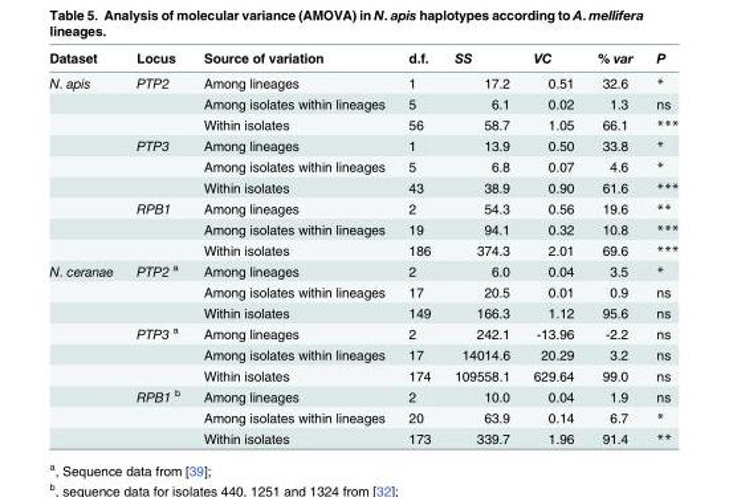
<table><thead><tr><td>Dataset</td><td>Locus</td><td>Source of variation</td><td>d.f.</td><td>SS</td><td>VC</td><td>% var</td><td>P</td></tr></thead><tbody><tr><td rowspan="9">N. apis</td><td>PTP2</td><td>Among lineages</td><td>1</td><td>17.2</td><td>0.51</td><td>32.6</td><td>*</td></tr><tr><td></td><td>Among isolates within lineages</td><td>5</td><td>6.1</td><td>0.02</td><td>1.3</td><td>ns</td></tr><tr><td></td><td>Within isolates</td><td>56</td><td>58.7</td><td>1.05</td><td>66.1</td><td>***</td></tr><tr><td>PTP3</td><td>Among lineages</td><td>1</td><td>13.9</td><td>0.50</td><td>33.8</td><td>*</td></tr><tr><td></td><td>Among isolates within lineages</td><td>5</td><td>6.8</td><td>0.07</td><td>4.6</td><td>*</td></tr><tr><td></td><td>Within isolates</td><td>43</td><td>38.9</td><td>0.90</td><td>61.6</td><td>***</td></tr><tr><td>RPB1</td><td>Among lineages</td><td>2</td><td>54.3</td><td>0.56</td><td>19.6</td><td>**</td></tr><tr><td></td><td>Among isolates within lineages</td><td>19</td><td>94.1</td><td>0.32</td><td>10.8</td><td>***</td></tr><tr><td></td><td>Within isolates</td><td>186</td><td>374.3</td><td>2.01</td><td>69.6</td><td>***</td></tr><tr><td rowspan="9">N. ceranae</td><td>PTP2 <sup>a</sup></td><td>Among lineages</td><td>2</td><td>6.0</td><td>0.04</td><td>3.5</td><td>*</td></tr><tr><td></td><td>Among isolates within lineages</td><td>17</td><td>20.5</td><td>0.01</td><td>0.9</td><td>ns</td></tr><tr><td></td><td>Within isolates</td><td>149</td><td>166.3</td><td>1.12</td><td>95.6</td><td>ns</td></tr><tr><td>PTP3 <sup>a</sup></td><td>Among lineages</td><td>2</td><td>242.1</td><td>-13.96</td><td>-2.2</td><td>ns</td></tr><tr><td></td><td>Among isolates within lineages</td><td>17</td><td>14014.6</td><td>20.29</td><td>3.2</td><td>ns</td></tr><tr><td></td><td>Within isolates</td><td>174</td><td>109558.1</td><td>629.64</td><td>99.0</td><td>ns</td></tr><tr><td>RPB1 <sup>b</sup></td><td>Among lineages</td><td>2</td><td>10.0</td><td>0.04</td><td>1.9</td><td>ns</td></tr><tr><td></td><td>Among isolates within lineages</td><td>20</td><td>63.9</td><td>0.14</td><td>6.7</td><td>*</td></tr><tr><td></td><td>Within isolates</td><td>173</td><td>339.7</td><td>1.96</td><td>91.4</td><td>**</td></tr></tbody></table>